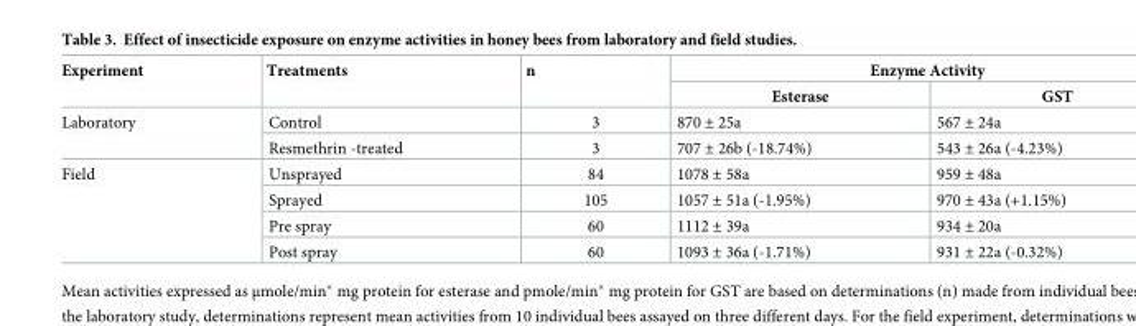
<table><thead><tr><td rowspan="2">Experiment</td><td rowspan="2">Treatments</td><td rowspan="2">n</td><td colspan="2">Enzyme Activity</td></tr><tr><td>Esterase</td><td>GST</td></tr></thead><tbody><tr><td rowspan="2">Laboratory</td><td>Control</td><td>3</td><td>870 ± 25a</td><td>567 ± 24a</td></tr><tr><td>Resmethrin -treated</td><td>3</td><td>707 ± 26b (-18.74%)</td><td>543 ± 26a (-4.23%)</td></tr><tr><td rowspan="4">Field</td><td>Unsprayed</td><td>84</td><td>1078 ± 58a</td><td>959 ± 48a</td></tr><tr><td>Sprayed</td><td>105</td><td>1057 ± 51a (-1.95%)</td><td>970 ± 43a (+1.15%)</td></tr><tr><td>Pre spray</td><td>60</td><td>1112 ± 39a</td><td>934 ± 20a</td></tr><tr><td>Post spray</td><td>60</td><td>1093 ± 36a (-1.71%)</td><td>931 ± 22a (-0.32%)</td></tr></tbody></table>